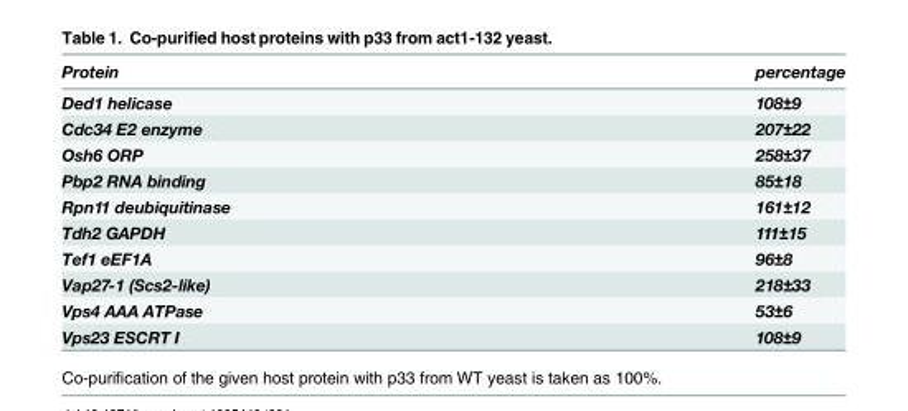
<table><thead><tr><td>Protein</td><td>percentage</td></tr></thead><tbody><tr><td>Ded1 helicase</td><td>108±9</td></tr><tr><td>Cdc34 E2 enzyme</td><td>207±22</td></tr><tr><td>Osh6 ORP</td><td>258±37</td></tr><tr><td>Pbp2 RNA binding</td><td>85±18</td></tr><tr><td>Rpn11 deubiquitinase</td><td>161±12</td></tr><tr><td>Tdh2 GAPDH</td><td>111±15</td></tr><tr><td>Tef1 eEF1A</td><td>96±8</td></tr><tr><td>Vap27-1 (Scs2-like)</td><td>218±33</td></tr><tr><td>Vps4 AAA ATPase</td><td>53±6</td></tr><tr><td>Vps23 ESCRT I</td><td>108±9</td></tr></tbody></table>